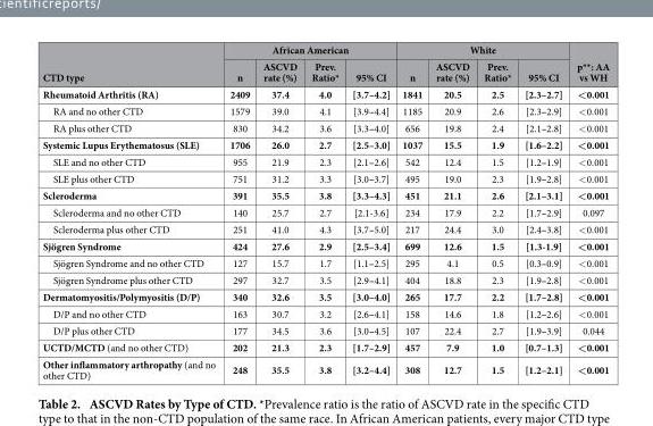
<table><thead><tr><td rowspan="2">CTD type</td><td colspan="4">African American</td><td colspan="4">White</td><td rowspan="2">p**: AA vs WH</td></tr><tr><td>n</td><td>ASCVD rate (%)</td><td>Prev. Ratio*</td><td>95% CI</td><td>n</td><td>ASCVD rate (%)</td><td>Prev. Ratio*</td><td>95% CI</td></tr></thead><tbody><tr><td>Rheumatoid Arthritis (RA)</td><td>2409</td><td>37.4</td><td>4.0</td><td>[3.7–4.2]</td><td>1841</td><td>20.5</td><td>2.5</td><td>[2.3–2.7]</td><td>&lt;0.001</td></tr><tr><td>RA and no other CTD</td><td>1579</td><td>39.0</td><td>4.1</td><td>[3.9–4.4]</td><td>1185</td><td>20.9</td><td>2.6</td><td>[2.3–2.9]</td><td>&lt; 0.001</td></tr><tr><td>RA plus other CTD</td><td>830</td><td>34.2</td><td>3.6</td><td>[3.3–4.0]</td><td>656</td><td>19.8</td><td>2.4</td><td>[2.1–2.8]</td><td>&lt; 0.001</td></tr><tr><td>Systemic Lupus Erythematosus (SLE)</td><td>1706</td><td>26.0</td><td>2.7</td><td>[2.5–3.0]</td><td>1037</td><td>15.5</td><td>1.9</td><td>[1.6–2.2]</td><td>&lt;0.001</td></tr><tr><td>SLE and no other CTD</td><td>955</td><td>21.9</td><td>2.3</td><td>[2.1–2.6]</td><td>542</td><td>12.4</td><td>1.5</td><td>[1.2–1.9]</td><td>&lt; 0.001</td></tr><tr><td>SLE plus other CTD</td><td>751</td><td>31.2</td><td>3.3</td><td>[3.0–3.7]</td><td>495</td><td>19.0</td><td>2.3</td><td>[1.9–2.8]</td><td>&lt; 0.001</td></tr><tr><td>Scleroderma</td><td>391</td><td>35.5</td><td>3.8</td><td>[3.3–4.3]</td><td>451</td><td>21.1</td><td>2.6</td><td>[2.1–3.1]</td><td>&lt;0.001</td></tr><tr><td>Scleroderma and no other CTD</td><td>140</td><td>25.7</td><td>2.7</td><td>[2.1-3.6]</td><td>234</td><td>17.9</td><td>2.2</td><td>[1.7–2.9]</td><td>0.097</td></tr><tr><td>Scleroderma plus other CTD</td><td>251</td><td>41.0</td><td>4.3</td><td>[3.7–5.0]</td><td>217</td><td>24.4</td><td>3.0</td><td>[2.4–3.8]</td><td>&lt; 0.001</td></tr><tr><td>Sjögren Syndrome</td><td>424</td><td>27.6</td><td>2.9</td><td>[2.5–3.4]</td><td>699</td><td>12.6</td><td>1.5</td><td>[1.3-1.9]</td><td>&lt;0.001</td></tr><tr><td>Sjögren Syndrome and no other CTD</td><td>127</td><td>15.7</td><td>1.7</td><td>[1.1–2.5]</td><td>295</td><td>4.1</td><td>0.5</td><td>[0.3–0.9]</td><td>&lt; 0.001</td></tr><tr><td>Sjögren Syndrome plus other CTD</td><td>297</td><td>32.7</td><td>3.5</td><td>[2.9–4.1]</td><td>404</td><td>18.8</td><td>2.3</td><td>[1.9–2.8]</td><td>&lt; 0.001</td></tr><tr><td>Dermatomyositis/Polymyositis (D/P)</td><td>340</td><td>32.6</td><td>3.5</td><td>[3.0–4.0]</td><td>265</td><td>17.7</td><td>2.2</td><td>[1.7–2.8]</td><td>&lt;0.001</td></tr><tr><td>D/P and no other CTD</td><td>163</td><td>30.7</td><td>3.2</td><td>[2.6–4.1]</td><td>158</td><td>14.6</td><td>1.8</td><td>[1.2–2.6]</td><td>&lt; 0.001</td></tr><tr><td>D/P plus other CTD</td><td>177</td><td>34.5</td><td>3.6</td><td>[3.0–4.5]</td><td>107</td><td>22.4</td><td>2.7</td><td>[1.9–3.9]</td><td>0.044</td></tr><tr><td>UCTD/MCTD (and no other CTD)</td><td>202</td><td>21.3</td><td>2.3</td><td>[1.7–2.9]</td><td>457</td><td>7.9</td><td>1.0</td><td>[0.7–1.3]</td><td>&lt;0.001</td></tr><tr><td>Other inflammatory arthropathy (and no other CTD)</td><td>248</td><td>35.5</td><td>3.8</td><td>[3.2–4.4]</td><td>308</td><td>12.7</td><td>1.5</td><td>[1.2–2.1]</td><td>&lt;0.001</td></tr></tbody></table>